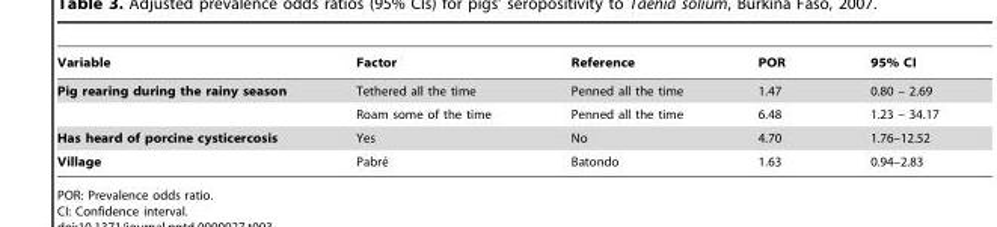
<table><thead><tr><td>Variable</td><td>Factor</td><td>Reference</td><td>POR</td><td>95% CI</td></tr></thead><tbody><tr><td rowspan="2">Pig rearing during the rainy season</td><td>Tethered all the time</td><td>Penned all the time</td><td>1.47</td><td>0.80 – 2.69</td></tr><tr><td>Roam some of the time</td><td>Penned all the time</td><td>6.48</td><td>1.23 – 34.17</td></tr><tr><td>Has heard of porcine cysticercosis</td><td>Yes</td><td>No</td><td>4.70</td><td>1.76–12.52</td></tr><tr><td>Village</td><td>Pabre´</td><td>Batondo</td><td>1.63</td><td>0.94–2.83</td></tr></tbody></table>